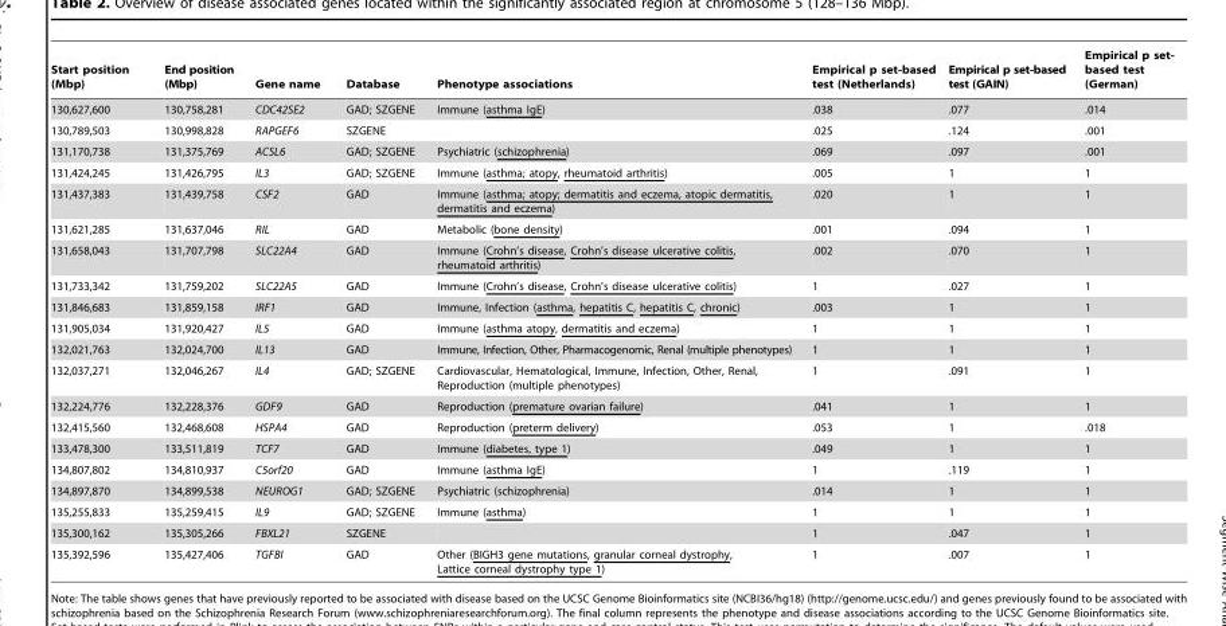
<table><thead><tr><td>Start position (Mbp)</td><td>End position (Mbp)</td><td>Gene name</td><td>Database</td><td>Phenotype associations</td><td>Empirical p set-based test (Netherlands)</td><td>Empirical p set-based test (GAIN)</td><td>Empirical p set- based test (German)</td></tr></thead><tbody><tr><td>130,627,600</td><td>130,758,281</td><td>CDC42SE2</td><td>GAD; SZGENE</td><td>Immune (asthma IgE)</td><td>.038</td><td>.077</td><td>.014</td></tr><tr><td>130,789,503</td><td>130,998,828</td><td>RAPGEF6</td><td>SZGENE</td><td></td><td>.025</td><td>.124</td><td>.001</td></tr><tr><td>131,170,738</td><td>131,375,769</td><td>ACSL6</td><td>GAD; SZGENE</td><td>Psychiatric (schizophrenia)</td><td>.069</td><td>.097</td><td>.001</td></tr><tr><td>131,424,245</td><td>131,426,795</td><td>IL3</td><td>GAD; SZGENE</td><td>Immune (asthma; atopy, rheumatoid arthritis)</td><td>.005</td><td>1</td><td>1</td></tr><tr><td>131,437,383</td><td>131,439,758</td><td>CSF2</td><td>GAD</td><td>Immune (asthma; atopy; dermatitis and eczema, atopic dermatitis, dermatitis and eczema)</td><td>.020</td><td>1</td><td>1</td></tr><tr><td>131,621,285</td><td>131,637,046</td><td>RIL</td><td>GAD</td><td>Metabolic (bone density)</td><td>.001</td><td>.094</td><td>1</td></tr><tr><td>131,658,043</td><td>131,707,798</td><td>SLC22A4</td><td>GAD</td><td>Immune (Crohn’s disease, Crohn’s disease ulcerative colitis, rheumatoid arthritis)</td><td>.002</td><td>.070</td><td>1</td></tr><tr><td>131,733,342</td><td>131,759,202</td><td>SLC22A5</td><td>GAD</td><td>Immune (Crohn’s disease, Crohn’s disease ulcerative colitis)</td><td>1</td><td>.027</td><td>1</td></tr><tr><td>131,846,683</td><td>131,859,158</td><td>IRF1</td><td>GAD</td><td>Immune, Infection (asthma, hepatitis C, hepatitis C, chronic)</td><td>.003</td><td>1</td><td>1</td></tr><tr><td>131,905,034</td><td>131,920,427</td><td>IL5</td><td>GAD</td><td>Immune (asthma atopy, dermatitis and eczema)</td><td>1</td><td>1</td><td>1</td></tr><tr><td>132,021,763</td><td>132,024,700</td><td>IL13</td><td>GAD</td><td>Immune, Infection, Other, Pharmacogenomic, Renal (multiple phenotypes)</td><td>1</td><td>1</td><td>1</td></tr><tr><td>132,037,271</td><td>132,046,267</td><td>IL4</td><td>GAD; SZGENE</td><td>Cardiovascular, Hematological, Immune, Infection, Other, Renal, Reproduction (multiple phenotypes)</td><td>1</td><td>.091</td><td>1</td></tr><tr><td>132,224,776</td><td>132,228,376</td><td>GDF9</td><td>GAD</td><td>Reproduction (premature ovarian failure)</td><td>.041</td><td>1</td><td>1</td></tr><tr><td>132,415,560</td><td>132,468,608</td><td>HSPA4</td><td>GAD</td><td>Reproduction (preterm delivery)</td><td>.053</td><td>1</td><td>.018</td></tr><tr><td>133,478,300</td><td>133,511,819</td><td>TCF7</td><td>GAD</td><td>Immune (diabetes, type 1)</td><td>.049</td><td>1</td><td>1</td></tr><tr><td>134,807,802</td><td>134,810,937</td><td>C5orf20</td><td>GAD</td><td>Immune (asthma IgE)</td><td>1</td><td>.119</td><td>1</td></tr><tr><td>134,897,870</td><td>134,899,538</td><td>NEUROG1</td><td>GAD; SZGENE</td><td>Psychiatric (schizophrenia)</td><td>.014</td><td>1</td><td>1</td></tr><tr><td>135,255,833</td><td>135,259,415</td><td>IL9</td><td>GAD; SZGENE</td><td>Immune (asthma)</td><td>1</td><td>1</td><td>1</td></tr><tr><td>135,300,162</td><td>135,305,266</td><td>FBXL21</td><td>SZGENE</td><td></td><td>1</td><td>.047</td><td>1</td></tr><tr><td>135,392,596</td><td>135,427,406</td><td>TGFBI</td><td>GAD</td><td>Other (BIGH3 gene mutations, granular corneal dystrophy, Lattice corneal dystrophy type 1)</td><td>1</td><td>.007</td><td>1</td></tr></tbody></table>